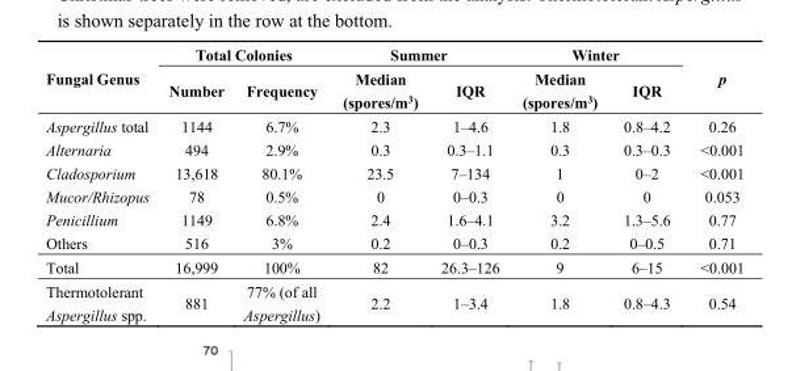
<table><thead><tr><td rowspan="2">Fungal Genus</td><td colspan="2">Total Colonies</td><td colspan="2">Summer</td><td colspan="2">Winter</td><td rowspan="2">p</td></tr><tr><td>Number</td><td>Frequency</td><td>Median (spores/m<sup>3</sup>)</td><td>IQR</td><td>Median (spores/m<sup>3</sup>)</td><td>IQR</td></tr></thead><tbody><tr><td>Aspergillus total</td><td>1144</td><td>6.7%</td><td>2.3</td><td>1–4.6</td><td>1.8</td><td>0.8–4.2</td><td>0.26</td></tr><tr><td>Alternaria</td><td>494</td><td>2.9%</td><td>0.3</td><td>0.3–1.1</td><td>0.3</td><td>0.3–0.3</td><td>&lt;0.001</td></tr><tr><td>Cladosporium</td><td>13,618</td><td>80.1%</td><td>23.5</td><td>7–134</td><td>1</td><td>0–2</td><td>&lt;0.001</td></tr><tr><td>Mucor/Rhizopus</td><td>78</td><td>0.5%</td><td>0</td><td>0–0.3</td><td>0</td><td>0</td><td>0.053</td></tr><tr><td>Penicillium</td><td>1149</td><td>6.8%</td><td>2.4</td><td>1.6–4.1</td><td>3.2</td><td>1.3–5.6</td><td>0.77</td></tr><tr><td>Others</td><td>516</td><td>3%</td><td>0.2</td><td>0–0.3</td><td>0.2</td><td>0–0.5</td><td>0.71</td></tr><tr><td>Total</td><td>16,999</td><td>100%</td><td>82</td><td>26.3–126</td><td>9</td><td>6–15</td><td>&lt;0.001</td></tr><tr><td>Thermotolerant Aspergillus spp.</td><td>881</td><td>77% (of all Aspergillus)</td><td>2.2</td><td>1–3.4</td><td>1.8</td><td>0.8–4.3</td><td>0.54</td></tr></tbody></table>